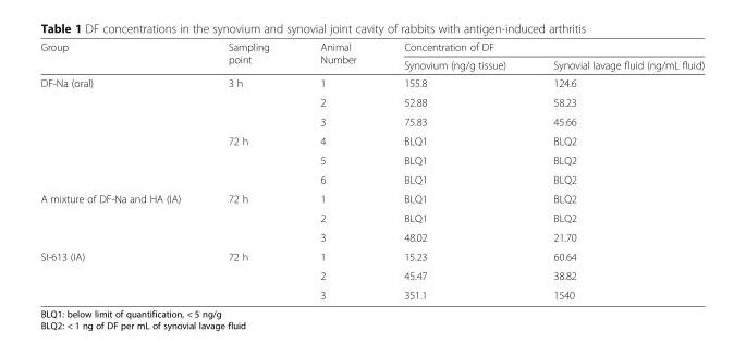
<table><thead><tr><td rowspan="2">Group</td><td rowspan="2">Sampling point</td><td rowspan="2">Animal Number</td><td colspan="2">Concentration of DF</td></tr><tr><td>Synovium (ng/g tissue)</td><td>Synovial lavage fluid (ng/mL fluid)</td></tr></thead><tbody><tr><td rowspan="6">DF-Na (oral)</td><td rowspan="3">3 h</td><td>1</td><td>155.8</td><td>124.6</td></tr><tr><td>2</td><td>52.88</td><td>58.23</td></tr><tr><td>3</td><td>75.83</td><td>45.66</td></tr><tr><td rowspan="3">72 h</td><td>4</td><td>BLQ1</td><td>BLQ2</td></tr><tr><td>5</td><td>BLQ1</td><td>BLQ2</td></tr><tr><td>6</td><td>BLQ1</td><td>BLQ2</td></tr><tr><td rowspan="3">A mixture of DF-Na and HA (IA)</td><td rowspan="3">72 h</td><td>1</td><td>BLQ1</td><td>BLQ2</td></tr><tr><td>2</td><td>BLQ1</td><td>BLQ2</td></tr><tr><td>3</td><td>48.02</td><td>21.70</td></tr><tr><td rowspan="3">SI-613 (IA)</td><td rowspan="3">72 h</td><td>1</td><td>15.23</td><td>60.64</td></tr><tr><td>2</td><td>45.47</td><td>38.82</td></tr><tr><td>3</td><td>351.1</td><td>1540</td></tr></tbody></table>